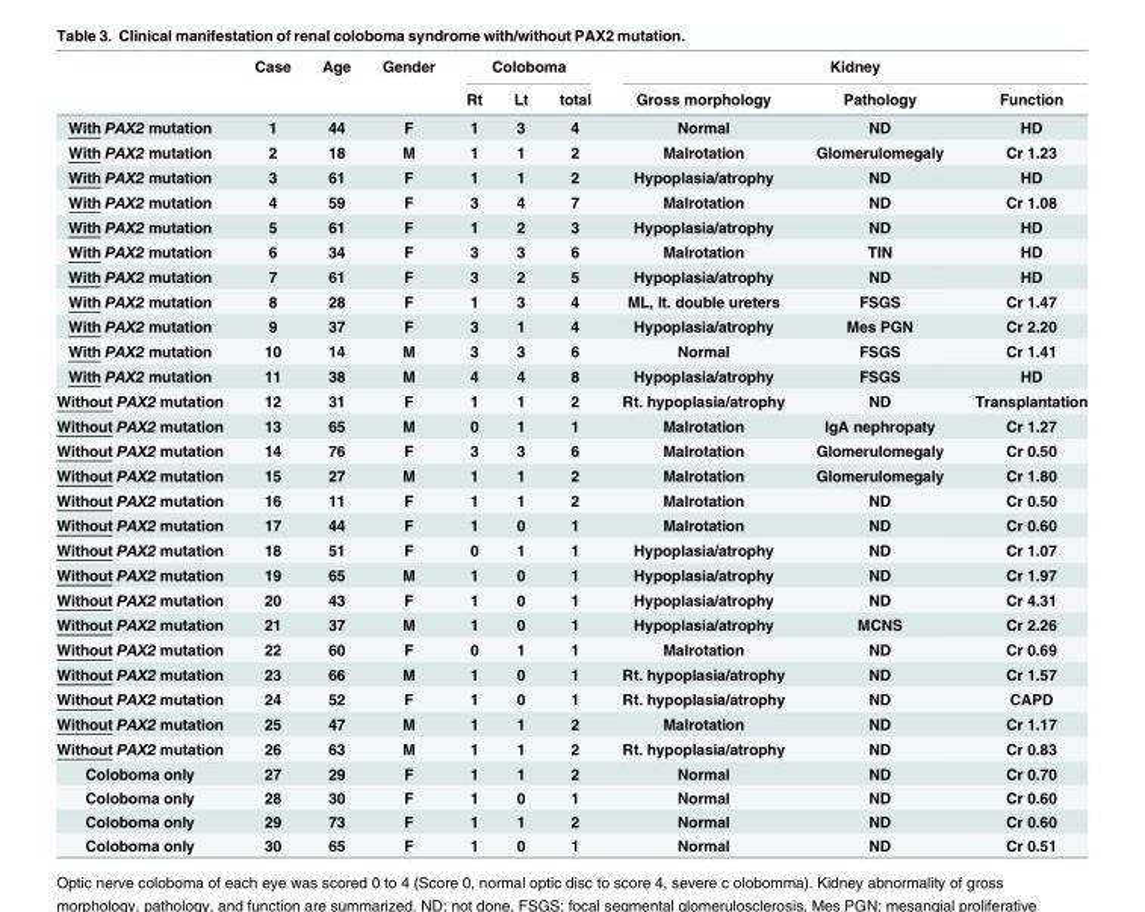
<table><thead><tr><td rowspan="2"></td><td rowspan="2">Case</td><td rowspan="2">Age</td><td rowspan="2">Gender</td><td colspan="3">Coloboma</td><td colspan="3">Kidney</td></tr><tr><td>Rt</td><td>Lt</td><td>total</td><td>Gross morphology</td><td>Pathology</td><td>Function</td></tr></thead><tbody><tr><td>With PAX2 mutation</td><td>1</td><td>44</td><td>F</td><td>1</td><td>3</td><td>4</td><td>Normal</td><td>ND</td><td>HD</td></tr><tr><td>With PAX2 mutation</td><td>2</td><td>18</td><td>M</td><td>1</td><td>1</td><td>2</td><td>Malrotation</td><td>Glomerulomegaly</td><td>Cr 1.23</td></tr><tr><td>With PAX2 mutation</td><td>3</td><td>61</td><td>F</td><td>1</td><td>1</td><td>2</td><td>Hypoplasia/atrophy</td><td>ND</td><td>HD</td></tr><tr><td>With PAX2 mutation</td><td>4</td><td>59</td><td>F</td><td>3</td><td>4</td><td>7</td><td>Malrotation</td><td>ND</td><td>Cr 1.08</td></tr><tr><td>With PAX2 mutation</td><td>5</td><td>61</td><td>F</td><td>1</td><td>2</td><td>3</td><td>Hypoplasia/atrophy</td><td>ND</td><td>HD</td></tr><tr><td>With PAX2 mutation</td><td>6</td><td>34</td><td>F</td><td>3</td><td>3</td><td>6</td><td>Malrotation</td><td>TIN</td><td>HD</td></tr><tr><td>With PAX2 mutation</td><td>7</td><td>61</td><td>F</td><td>3</td><td>2</td><td>5</td><td>Hypoplasia/atrophy</td><td>ND</td><td>HD</td></tr><tr><td>With PAX2 mutation</td><td>8</td><td>28</td><td>F</td><td>1</td><td>3</td><td>4</td><td>ML, lt. double ureters</td><td>FSGS</td><td>Cr 1.47</td></tr><tr><td>With PAX2 mutation</td><td>9</td><td>37</td><td>F</td><td>3</td><td>1</td><td>4</td><td>Hypoplasia/atrophy</td><td>Mes PGN</td><td>Cr 2.20</td></tr><tr><td>With PAX2 mutation</td><td>10</td><td>14</td><td>M</td><td>3</td><td>3</td><td>6</td><td>Normal</td><td>FSGS</td><td>Cr 1.41</td></tr><tr><td>With PAX2 mutation</td><td>11</td><td>38</td><td>M</td><td>4</td><td>4</td><td>8</td><td>Hypoplasia/atrophy</td><td>FSGS</td><td>HD</td></tr><tr><td>Without PAX2 mutation</td><td>12</td><td>31</td><td>F</td><td>1</td><td>1</td><td>2</td><td>Rt. hypoplasia/atrophy</td><td>ND</td><td>Transplantation</td></tr><tr><td>Without PAX2 mutation</td><td>13</td><td>65</td><td>M</td><td>0</td><td>1</td><td>1</td><td>Malrotation</td><td>IgA nephropaty</td><td>Cr 1.27</td></tr><tr><td>Without PAX2 mutation</td><td>14</td><td>76</td><td>F</td><td>3</td><td>3</td><td>6</td><td>Malrotation</td><td>Glomerulomegaly</td><td>Cr 0.50</td></tr><tr><td>Without PAX2 mutation</td><td>15</td><td>27</td><td>M</td><td>1</td><td>1</td><td>2</td><td>Malrotation</td><td>Glomerulomegaly</td><td>Cr 1.80</td></tr><tr><td>Without PAX2 mutation</td><td>16</td><td>11</td><td>F</td><td>1</td><td>1</td><td>2</td><td>Malrotation</td><td>ND</td><td>Cr 0.50</td></tr><tr><td>Without PAX2 mutation</td><td>17</td><td>44</td><td>F</td><td>1</td><td>0</td><td>1</td><td>Malrotation</td><td>ND</td><td>Cr 0.60</td></tr><tr><td>Without PAX2 mutation</td><td>18</td><td>51</td><td>F</td><td>0</td><td>1</td><td>1</td><td>Hypoplasia/atrophy</td><td>ND</td><td>Cr 1.07</td></tr><tr><td>Without PAX2 mutation</td><td>19</td><td>65</td><td>M</td><td>1</td><td>0</td><td>1</td><td>Hypoplasia/atrophy</td><td>ND</td><td>Cr 1.97</td></tr><tr><td>Without PAX2 mutation</td><td>20</td><td>43</td><td>F</td><td>1</td><td>0</td><td>1</td><td>Hypoplasia/atrophy</td><td>ND</td><td>Cr 4.31</td></tr><tr><td>Without PAX2 mutation</td><td>21</td><td>37</td><td>M</td><td>1</td><td>0</td><td>1</td><td>Hypoplasia/atrophy</td><td>MCNS</td><td>Cr 2.26</td></tr><tr><td>Without PAX2 mutation</td><td>22</td><td>60</td><td>F</td><td>0</td><td>1</td><td>1</td><td>Malrotation</td><td>ND</td><td>Cr 0.69</td></tr><tr><td>Without PAX2 mutation</td><td>23</td><td>66</td><td>M</td><td>1</td><td>0</td><td>1</td><td>Rt. hypoplasia/atrophy</td><td>ND</td><td>Cr 1.57</td></tr><tr><td>Without PAX2 mutation</td><td>24</td><td>52</td><td>F</td><td>1</td><td>0</td><td>1</td><td>Rt. hypoplasia/atrophy</td><td>ND</td><td>CAPD</td></tr><tr><td>Without PAX2 mutation</td><td>25</td><td>47</td><td>M</td><td>1</td><td>1</td><td>2</td><td>Malrotation</td><td>ND</td><td>Cr 1.17</td></tr><tr><td>Without PAX2 mutation</td><td>26</td><td>63</td><td>M</td><td>1</td><td>1</td><td>2</td><td>Rt. hypoplasia/atrophy</td><td>ND</td><td>Cr 0.83</td></tr><tr><td>Coloboma only</td><td>27</td><td>29</td><td>F</td><td>1</td><td>1</td><td>2</td><td>Normal</td><td>ND</td><td>Cr 0.70</td></tr><tr><td>Coloboma only</td><td>28</td><td>30</td><td>F</td><td>1</td><td>0</td><td>1</td><td>Normal</td><td>ND</td><td>Cr 0.60</td></tr><tr><td>Coloboma only</td><td>29</td><td>73</td><td>F</td><td>1</td><td>1</td><td>2</td><td>Normal</td><td>ND</td><td>Cr 0.60</td></tr><tr><td>Coloboma only</td><td>30</td><td>65</td><td>F</td><td>1</td><td>0</td><td>1</td><td>Normal</td><td>ND</td><td>Cr 0.51</td></tr></tbody></table>